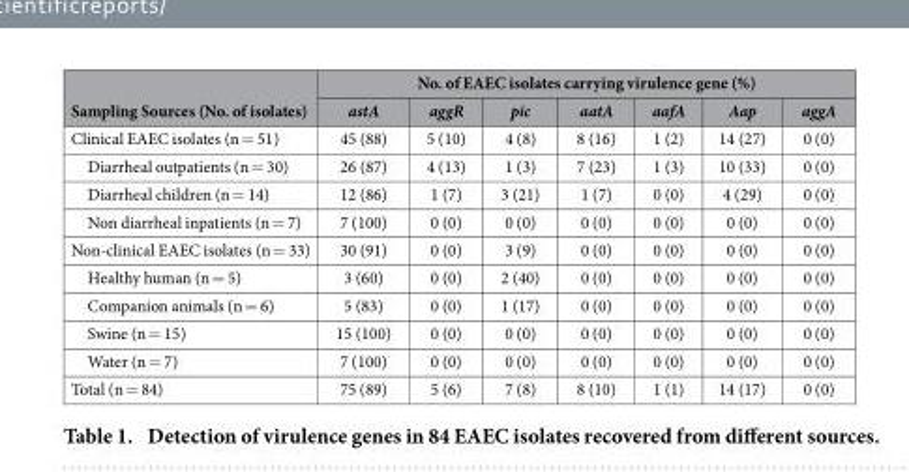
<table><thead><tr><td rowspan="2">Sampling Sources (No. of isolates)</td><td colspan="7">No. of EAEC isolates carrying virulence gene (%)</td></tr><tr><td>astA</td><td>aggR</td><td>pic</td><td>aatA</td><td>aafA</td><td>Aap</td><td>aggA</td></tr></thead><tbody><tr><td>Clinical EAEC isolates (n = 51)</td><td>45 (88)</td><td>5 (10)</td><td>4 (8)</td><td>8 (16)</td><td>1 (2)</td><td>14 (27)</td><td>0 (0)</td></tr><tr><td>Diarrheal outpatients (n = 30)</td><td>26 (87)</td><td>4 (13)</td><td>1 (3)</td><td>7 (23)</td><td>1 (3)</td><td>10 (33)</td><td>0 (0)</td></tr><tr><td>Diarrheal children (n = 14)</td><td>12 (86)</td><td>1 (7)</td><td>3 (21)</td><td>1 (7)</td><td>0 (0)</td><td>4 (29)</td><td>0 (0)</td></tr><tr><td>Non diarrheal inpatients (n = 7)</td><td>7 (100)</td><td>0 (0)</td><td>0 (0)</td><td>0 (0)</td><td>0 (0)</td><td>0 (0)</td><td>0 (0)</td></tr><tr><td>Non-clinical EAEC isolates (n = 33)</td><td>30 (91)</td><td>0 (0)</td><td>3 (9)</td><td>0 (0)</td><td>0 (0)</td><td>0 (0)</td><td>0 (0)</td></tr><tr><td>Healthy human (n = 5)</td><td>3 (60)</td><td>0 (0)</td><td>2 (40)</td><td>0 (0)</td><td>0 (0)</td><td>0 (0)</td><td>0 (0)</td></tr><tr><td>Companion animals (n = 6)</td><td>5 (83)</td><td>0 (0)</td><td>1 (17)</td><td>0 (0)</td><td>0 (0)</td><td>0 (0)</td><td>0 (0)</td></tr><tr><td>Swine (n = 15)</td><td>15 (100)</td><td>0 (0)</td><td>0 (0)</td><td>0 (0)</td><td>0 (0)</td><td>0 (0)</td><td>0 (0)</td></tr><tr><td>Water (n = 7)</td><td>7 (100)</td><td>0 (0)</td><td>0 (0)</td><td>0 (0)</td><td>0 (0)</td><td>0 (0)</td><td>0 (0)</td></tr><tr><td>Total (n = 84)</td><td>75 (89)</td><td>5 (6)</td><td>7 (8)</td><td>8 (10)</td><td>1 (1)</td><td>14 (17)</td><td>0 (0)</td></tr></tbody></table>